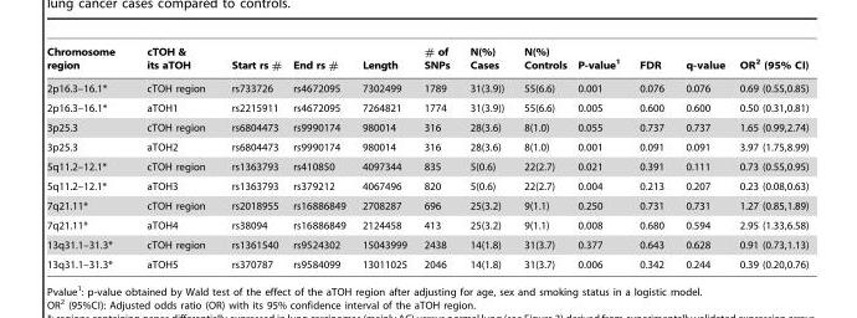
<table><thead><tr><td>Chromosome region</td><td>cTOH &amp; its aTOH</td><td>Start rs #</td><td>End rs #</td><td>Length</td><td># of SNPs</td><td>N(%) Cases</td><td>N(%) Controls</td><td>P-value<sup>1</sup></td><td>FDR</td><td>q-value</td><td>OR<sup>2</sup> (95% CI)</td></tr></thead><tbody><tr><td>2p16.3–16.1*</td><td>cTOH region</td><td>rs733726</td><td>rs4672095</td><td>7302499</td><td>1789</td><td>31(3.9))</td><td>55(6.6)</td><td>0.001</td><td>0.076</td><td>0.076</td><td>0.69 (0.55,0.85)</td></tr><tr><td>2p16.3–16.1*</td><td>aTOH1</td><td>rs2215911</td><td>rs4672095</td><td>7264821</td><td>1774</td><td>31(3.9))</td><td>55(6.6)</td><td>0.005</td><td>0.600</td><td>0.600</td><td>0.50 (0.31,0.81)</td></tr><tr><td>3p25.3</td><td>cTOH region</td><td>rs6804473</td><td>rs9990174</td><td>980014</td><td>316</td><td>28(3.6)</td><td>8(1.0)</td><td>0.055</td><td>0.737</td><td>0.737</td><td>1.65 (0.99,2.74)</td></tr><tr><td>3p25.3</td><td>aTOH2</td><td>rs6804473</td><td>rs9990174</td><td>980014</td><td>316</td><td>28(3.6)</td><td>8(1.0)</td><td>0.001</td><td>0.091</td><td>0.091</td><td>3.97 (1.75,8.99)</td></tr><tr><td>5q11.2–12.1*</td><td>cTOH region</td><td>rs1363793</td><td>rs410850</td><td>4097344</td><td>835</td><td>5(0.6)</td><td>22(2.7)</td><td>0.021</td><td>0.391</td><td>0.111</td><td>0.73 (0.55,0.95)</td></tr><tr><td>5q11.2–12.1*</td><td>aTOH3</td><td>rs1363793</td><td>rs379212</td><td>4067496</td><td>820</td><td>5(0.6)</td><td>22(2.7)</td><td>0.004</td><td>0.213</td><td>0.207</td><td>0.23 (0.08,0.63)</td></tr><tr><td>7q21.11*</td><td>cTOH region</td><td>rs2018955</td><td>rs16886849</td><td>2708287</td><td>696</td><td>25(3.2)</td><td>9(1.1)</td><td>0.250</td><td>0.731</td><td>0.731</td><td>1.27 (0.85,1.89)</td></tr><tr><td>7q21.11*</td><td>aTOH4</td><td>rs38094</td><td>rs16886849</td><td>2124458</td><td>413</td><td>25(3.2)</td><td>9(1.1)</td><td>0.008</td><td>0.680</td><td>0.594</td><td>2.95 (1.33,6.58)</td></tr><tr><td>13q31.1–31.3*</td><td>cTOH region</td><td>rs1361540</td><td>rs9524302</td><td>15043999</td><td>2438</td><td>14(1.8)</td><td>31(3.7)</td><td>0.377</td><td>0.643</td><td>0.628</td><td>0.91 (0.73,1.13)</td></tr><tr><td>13q31.1–31.3*</td><td>aTOH5</td><td>rs370787</td><td>rs9584099</td><td>13011025</td><td>2046</td><td>14(1.8)</td><td>31(3.7)</td><td>0.006</td><td>0.342</td><td>0.244</td><td>0.39 (0.20,0.76)</td></tr></tbody></table>